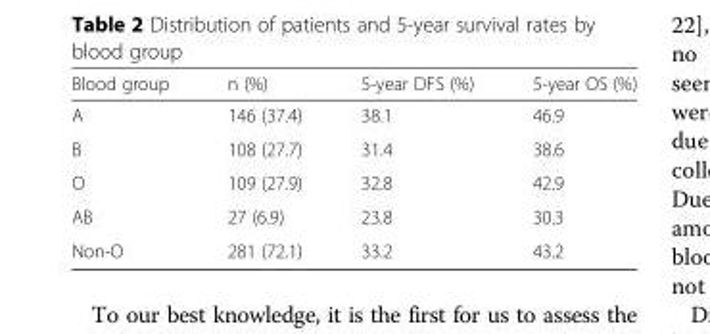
<table><thead><tr><td>Blood group</td><td>n (%)</td><td>5-year DFS (%)</td><td>5-year OS (%)</td></tr></thead><tbody><tr><td>A</td><td>146 (37.4)</td><td>38.1</td><td>46.9</td></tr><tr><td>B</td><td>108 (27.7)</td><td>31.4</td><td>38.6</td></tr><tr><td>O</td><td>109 (27.9)</td><td>32.8</td><td>42.9</td></tr><tr><td>AB</td><td>27 (6.9)</td><td>23.8</td><td>30.3</td></tr><tr><td>Non-O</td><td>281 (72.1)</td><td>33.2</td><td>43.2</td></tr></tbody></table>